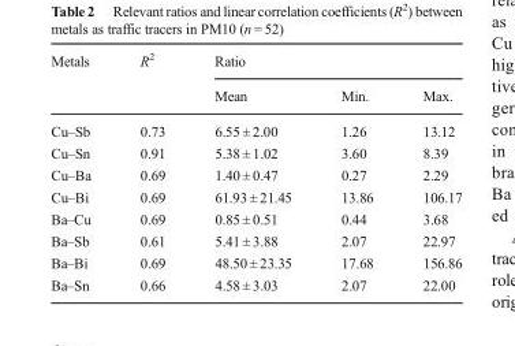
<table><thead><tr><td rowspan="2">Metals</td><td rowspan="2">R<sup>2</sup></td><td colspan="3">Ratio</td></tr><tr><td>Mean</td><td>Min.</td><td>Max.</td></tr></thead><tbody><tr><td>Cu–Sb</td><td>0.73</td><td>6.55 ± 2.00</td><td>1.26</td><td>13.12</td></tr><tr><td>Cu–Sn</td><td>0.91</td><td>5.38 ± 1.02</td><td>3.60</td><td>8.39</td></tr><tr><td>Cu–Ba</td><td>0.69</td><td>1.40 ± 0.47</td><td>0.27</td><td>2.29</td></tr><tr><td>Cu–Bi</td><td>0.69</td><td>61.93 ± 21.45</td><td>13.86</td><td>106.17</td></tr><tr><td>Ba–Cu</td><td>0.69</td><td>0.85 ± 0.51</td><td>0.44</td><td>3.68</td></tr><tr><td>Ba–Sb</td><td>0.61</td><td>5.41 ± 3.88</td><td>2.07</td><td>22.97</td></tr><tr><td>Ba–Bi</td><td>0.69</td><td>48.50 ± 23.35</td><td>17.68</td><td>156.86</td></tr><tr><td>Ba–Sn</td><td>0.66</td><td>4.58 ± 3.03</td><td>2.07</td><td>22.00</td></tr></tbody></table>